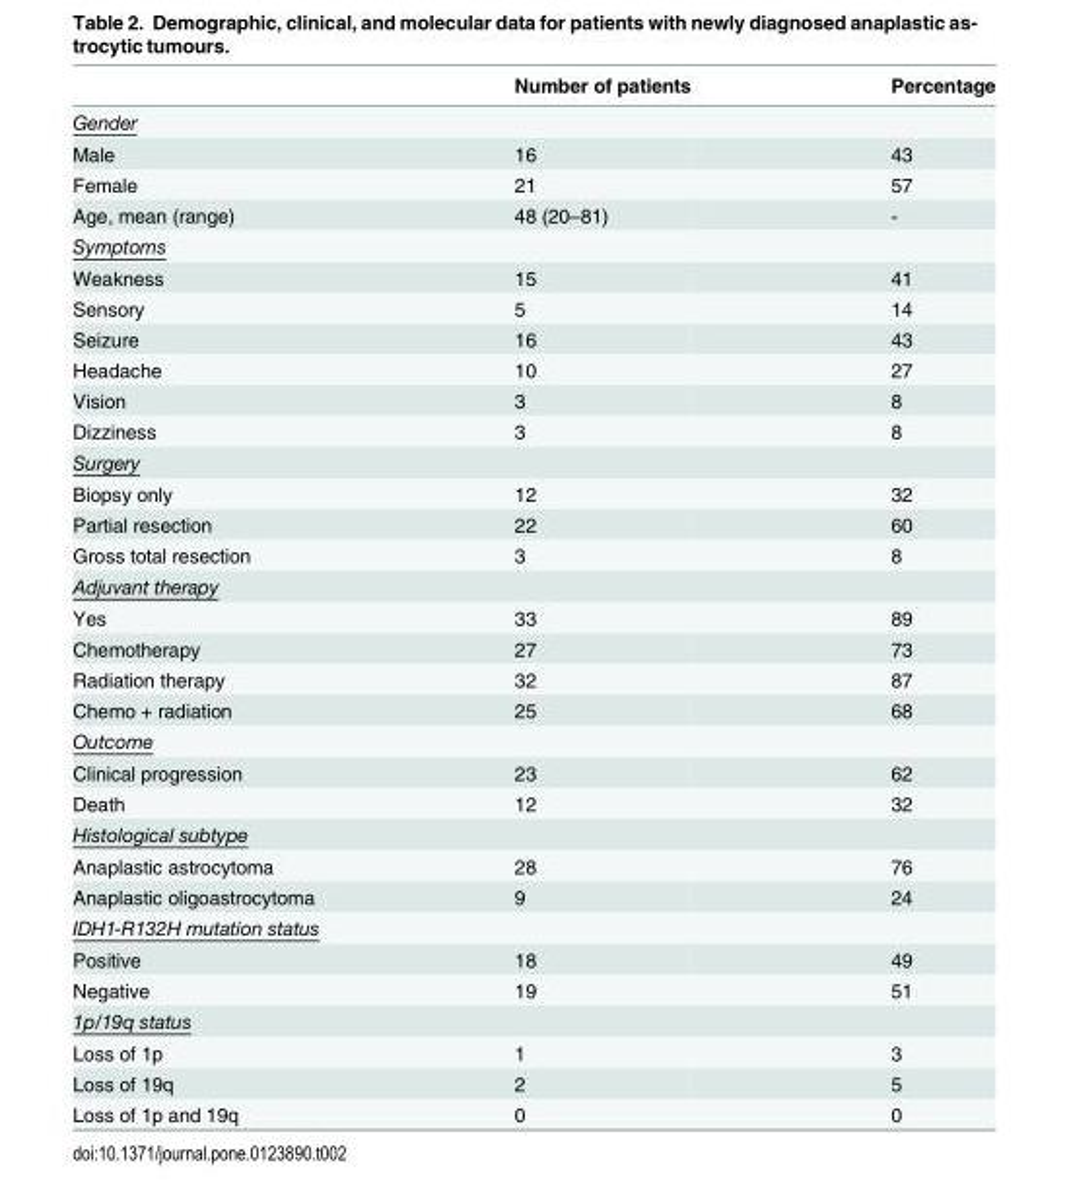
<table><thead><tr><td></td><td>Number of patients</td><td>Percentage</td></tr></thead><tbody><tr><td colspan="3">Gender</td></tr><tr><td>Male</td><td>16</td><td>43</td></tr><tr><td>Female</td><td>21</td><td>57</td></tr><tr><td>Age, mean (range)</td><td>48 (20–81)</td><td>-</td></tr><tr><td colspan="3">Symptoms</td></tr><tr><td>Weakness</td><td>15</td><td>41</td></tr><tr><td>Sensory</td><td>5</td><td>14</td></tr><tr><td>Seizure</td><td>16</td><td>43</td></tr><tr><td>Headache</td><td>10</td><td>27</td></tr><tr><td>Vision</td><td>3</td><td>8</td></tr><tr><td>Dizziness</td><td>3</td><td>8</td></tr><tr><td colspan="3">Surgery</td></tr><tr><td>Biopsy only</td><td>12</td><td>32</td></tr><tr><td>Partial resection</td><td>22</td><td>60</td></tr><tr><td>Gross total resection</td><td>3</td><td>8</td></tr><tr><td colspan="3">Adjuvant therapy</td></tr><tr><td>Yes</td><td>33</td><td>89</td></tr><tr><td>Chemotherapy</td><td>27</td><td>73</td></tr><tr><td>Radiation therapy</td><td>32</td><td>87</td></tr><tr><td>Chemo + radiation</td><td>25</td><td>68</td></tr><tr><td colspan="3">Outcome</td></tr><tr><td>Clinical progression</td><td>23</td><td>62</td></tr><tr><td>Death</td><td>12</td><td>32</td></tr><tr><td colspan="3">Histological subtype</td></tr><tr><td>Anaplastic astrocytoma</td><td>28</td><td>76</td></tr><tr><td>Anaplastic oligoastrocytoma</td><td>9</td><td>24</td></tr><tr><td colspan="3">IDH1-R132H mutation status</td></tr><tr><td>Positive</td><td>18</td><td>49</td></tr><tr><td>Negative</td><td>19</td><td>51</td></tr><tr><td colspan="3">1p/19q status</td></tr><tr><td>Loss of 1p</td><td>1</td><td>3</td></tr><tr><td>Loss of 19q</td><td>2</td><td>5</td></tr><tr><td>Loss of 1p and 19q</td><td>0</td><td>0</td></tr></tbody></table>